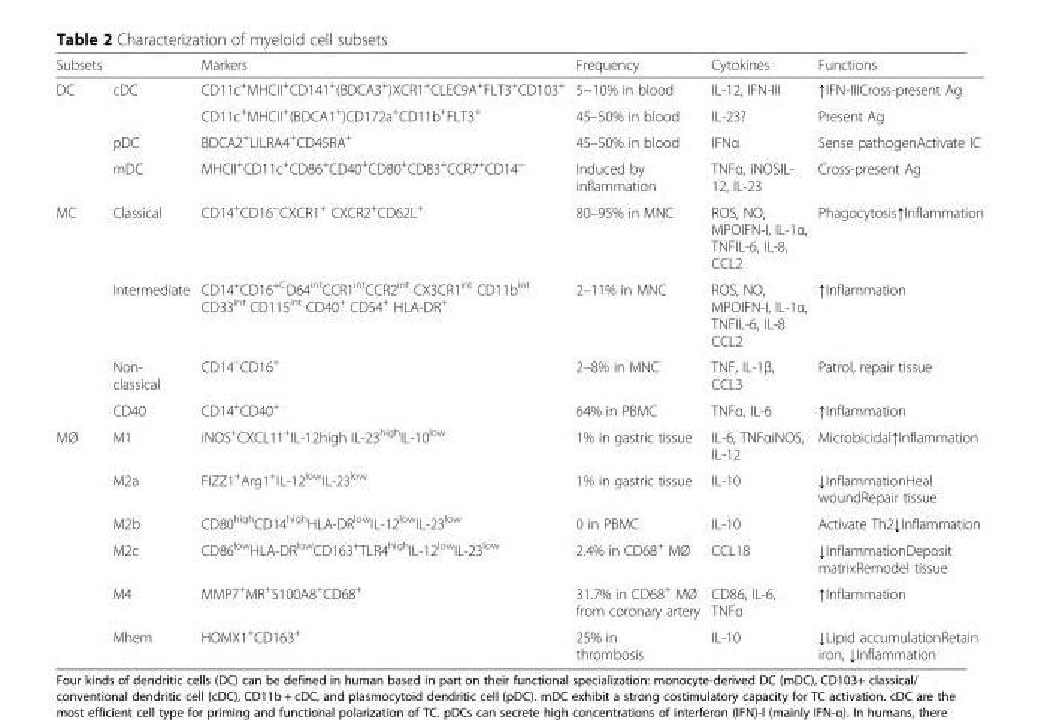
<table><thead><tr><td>Subsets</td><td></td><td>Markers</td><td>Frequency</td><td>Cytokines</td><td>Functions</td></tr></thead><tbody><tr><td rowspan="4">DC</td><td rowspan="2">cDC</td><td>CD11c<sup>+</sup>MHCII<sup>+</sup>CD141<sup>+</sup>(BDCA3<sup>+</sup>)XCR1<sup>+</sup>CLEC9A<sup>+</sup>FLT3<sup>+</sup>CD103<sup>+</sup></td><td>5~10% in blood</td><td>IL-12, IFN-III</td><td>↑IFN-IIICross-present Ag</td></tr><tr><td>CD11c<sup>+</sup>MHCII<sup>+</sup>(BDCA1<sup>+</sup>)CD172a<sup>+</sup>CD11b<sup>+</sup>FLT3<sup>+</sup></td><td>45–50% in blood</td><td>IL-23?</td><td>Present Ag</td></tr><tr><td>pDC</td><td>BDCA2<sup>+</sup>LILRA4<sup>+</sup>CD45RA<sup>+</sup></td><td>45–50% in blood</td><td>IFNα</td><td>Sense pathogenActivate IC</td></tr><tr><td>mDC</td><td>MHCII<sup>+</sup>CD11c<sup>+</sup>CD86<sup>+</sup>CD40<sup>+</sup>CD80<sup>+</sup>CD83<sup>+</sup>CCR7<sup>+</sup>CD14<sup>−</sup></td><td>Induced by inflammation</td><td>TNFα, iNOSIL- 12, IL-23</td><td>Cross-present Ag</td></tr><tr><td rowspan="4">MC</td><td>Classical</td><td>CD14<sup>+</sup>CD16<sup>−</sup>CXCR1<sup>+</sup> CXCR2<sup>+</sup>CD62L<sup>+</sup></td><td>80–95% in MNC</td><td>ROS, NO, MPOIFN-I, IL-1α, TNFIL-6, IL-8, CCL2</td><td>Phagocytosis↑Inflammation</td></tr><tr><td>Intermediate</td><td>CD14<sup>+</sup>CD16<sup>+C</sup>D64<sup>int</sup>CCR1<sup>int</sup>CCR2<sup>int</sup> CX3CR1<sup>int</sup> CD11b<sup>int</sup> CD33<sup>int</sup> CD115<sup>int</sup> CD40<sup>+</sup> CD54<sup>+</sup> HLA-DR<sup>+</sup></td><td>2–11% in MNC</td><td>ROS, NO, MPOIFN-I, IL-1α, TNFIL-6, IL-8 CCL2</td><td>↑Inflammation</td></tr><tr><td>Non- classical</td><td>CD14<sup>−</sup>CD16<sup>+</sup></td><td>2–8% in MNC</td><td>TNF, IL-1β, CCL3</td><td>Patrol, repair tissue</td></tr><tr><td>CD40</td><td>CD14<sup>+</sup>CD40<sup>+</sup></td><td>64% in PBMC</td><td>TNFα, IL-6</td><td>↑Inflammation</td></tr><tr><td rowspan="6">MØ</td><td>M1</td><td>iNOS<sup>+</sup>CXCL11<sup>+</sup>IL-12high IL-23<sup>high</sup>IL-10<sup>low</sup></td><td>1% in gastric tissue</td><td>IL-6, TNFαiNOS, IL-12</td><td>Microbicidal↑Inflammation</td></tr><tr><td>M2a</td><td>FIZZ1<sup>+</sup>Arg1<sup>+</sup>IL-12<sup>low</sup>IL-23<sup>low</sup></td><td>1% in gastric tissue</td><td>IL-10</td><td>↓InflammationHeal woundRepair tissue</td></tr><tr><td>M2b</td><td>CD80<sup>high</sup>CD14<sup>high</sup>HLA-DR<sup>low</sup>IL-12<sup>low</sup>IL-23<sup>low</sup></td><td>0 in PBMC</td><td>IL-10</td><td>Activate Th2↓Inflammation</td></tr><tr><td>M2c</td><td>CD86<sup>low</sup>HLA-DR<sup>low</sup>CD163<sup>+</sup>TLR4<sup>high</sup>IL-12<sup>low</sup>IL-23<sup>low</sup></td><td>2.4% in CD68<sup>+</sup> MØ</td><td>CCL18</td><td>↓InflammationDeposit matrixRemodel tissue</td></tr><tr><td>M4</td><td>MMP7<sup>+</sup>MR<sup>+</sup>S100A8<sup>+</sup>CD68<sup>+</sup></td><td>31.7% in CD68<sup>+</sup> MØ from coronary artery</td><td>CD86, IL-6, TNFα</td><td>↑Inflammation</td></tr><tr><td>Mhem</td><td>HOMX1<sup>+</sup>CD163<sup>+</sup></td><td>25% in thrombosis</td><td>IL-10</td><td>↓Lipid accumulationRetain iron, ↓Inflammation</td></tr></tbody></table>